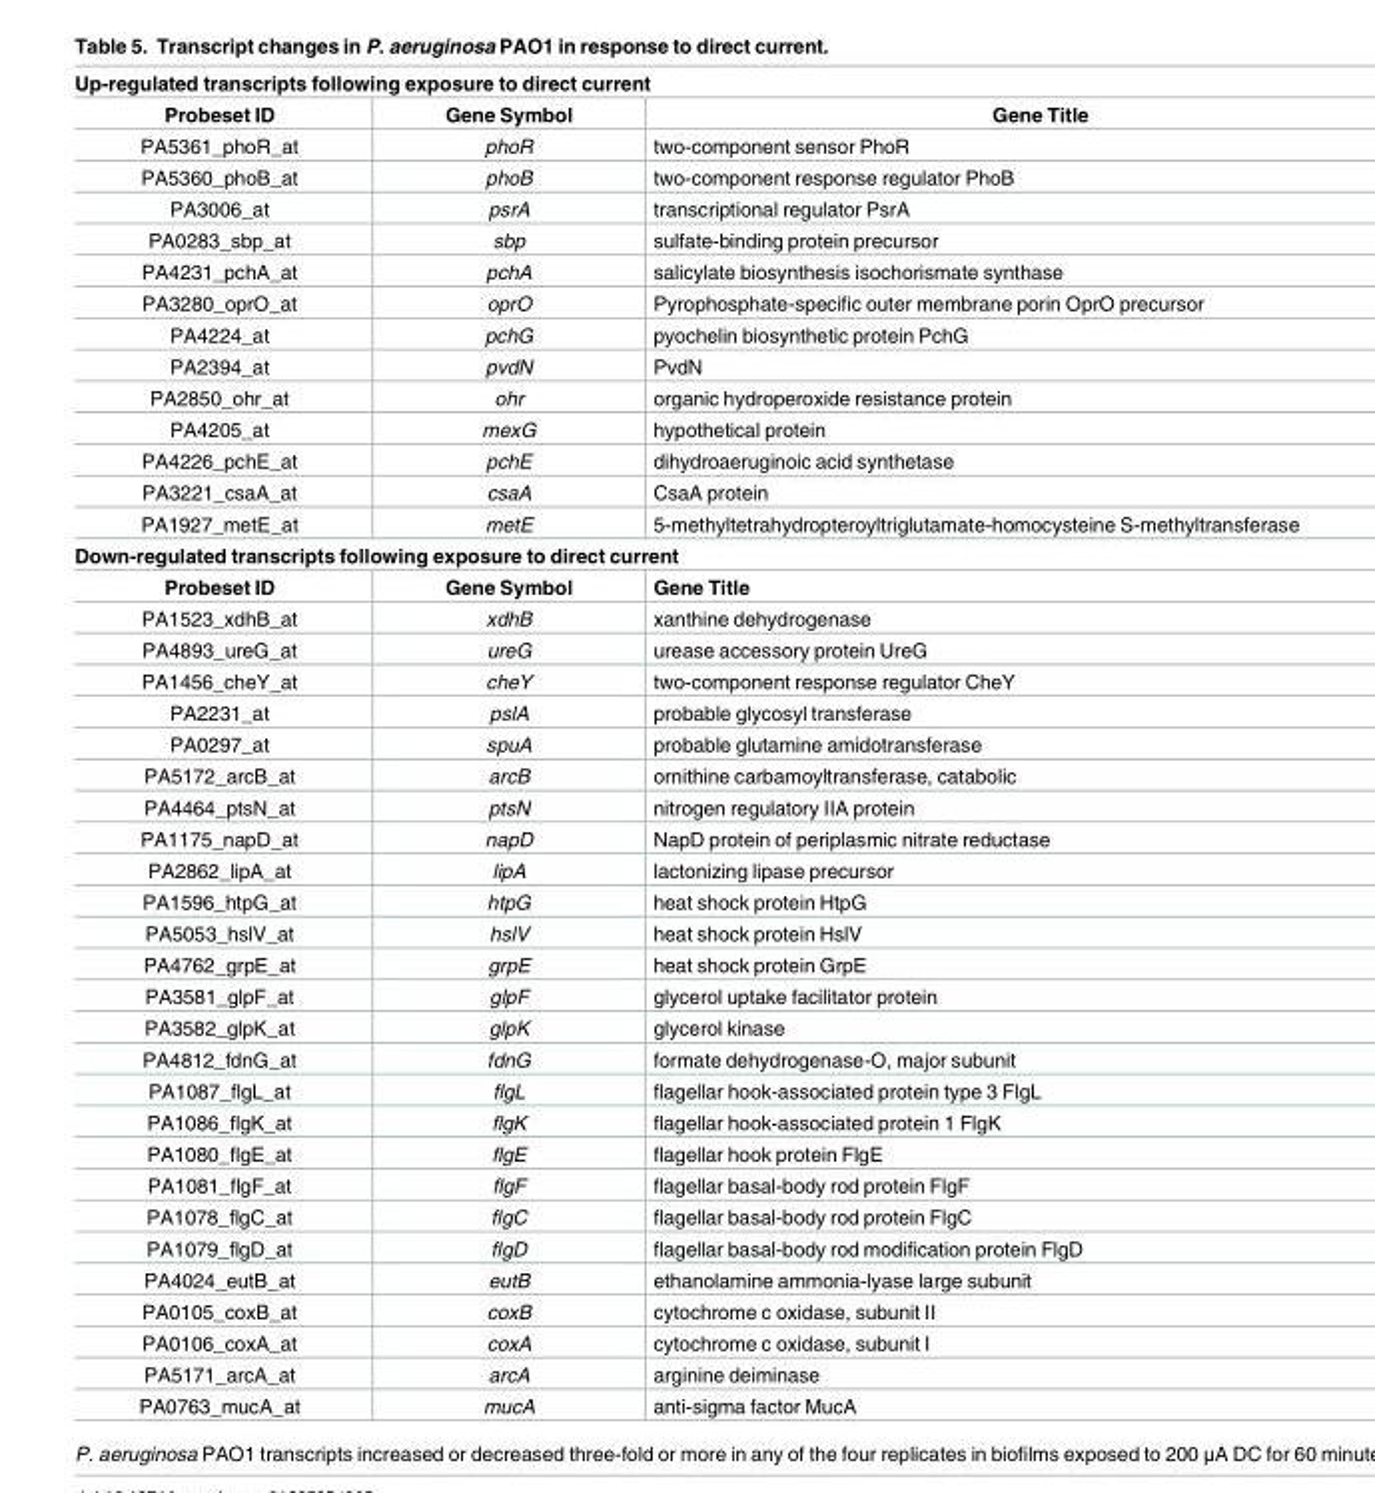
<table><tbody><tr><td colspan="3">Up-regulated transcripts following exposure to direct current</td></tr><tr><td>Probeset ID</td><td>Gene Symbol</td><td>Gene Title</td></tr><tr><td>PA5361_phoR_at</td><td>phoR</td><td>two-component sensor PhoR</td></tr><tr><td>PA5360_phoB_at</td><td>phoB</td><td>two-component response regulator PhoB</td></tr><tr><td>PA3006_at</td><td>psrA</td><td>transcriptional regulator PsrA</td></tr><tr><td>PA0283_sbp_at</td><td>sbp</td><td>sulfate-binding protein precursor</td></tr><tr><td>PA4231_pchA_at</td><td>pchA</td><td>salicylate biosynthesis isochorismate synthase</td></tr><tr><td>PA3280_oprO_at</td><td>oprO</td><td>Pyrophosphate-specific outer membrane porin OprO precursor</td></tr><tr><td>PA4224_at</td><td>pchG</td><td>pyochelin biosynthetic protein PchG</td></tr><tr><td>PA2394_at</td><td>pvdN</td><td>PvdN</td></tr><tr><td>PA2850_ohr_at</td><td>ohr</td><td>organic hydroperoxide resistance protein</td></tr><tr><td>PA4205_at</td><td>mexG</td><td>hypothetical protein</td></tr><tr><td>PA4226_pchE_at</td><td>pchE</td><td>dihydroaeruginoic acid synthetase</td></tr><tr><td>PA3221_csaA_at</td><td>csaA</td><td>CsaA protein</td></tr><tr><td>PA1927_metE_at</td><td>metE</td><td>5-methyltetrahydropteroyltriglutamate-homocysteine S-methyltransferase</td></tr><tr><td colspan="3">Down-regulated transcripts following exposure to direct current</td></tr><tr><td>Probeset ID</td><td>Gene Symbol</td><td>Gene Title</td></tr><tr><td>PA1523_xdhB_at</td><td>xdhB</td><td>xanthine dehydrogenase</td></tr><tr><td>PA4893_ureG_at</td><td>ureG</td><td>urease accessory protein UreG</td></tr><tr><td>PA1456_cheY_at</td><td>cheY</td><td>two-component response regulator CheY</td></tr><tr><td>PA2231_at</td><td>pslA</td><td>probable glycosyl transferase</td></tr><tr><td>PA0297_at</td><td>spuA</td><td>probable glutamine amidotransferase</td></tr><tr><td>PA5172_arcB_at</td><td>arcB</td><td>ornithine carbamoyltransferase, catabolic</td></tr><tr><td>PA4464_ptsN_at</td><td>ptsN</td><td>nitrogen regulatory IIA protein</td></tr><tr><td>PA1175_napD_at</td><td>napD</td><td>NapD protein of periplasmic nitrate reductase</td></tr><tr><td>PA2862_lipA_at</td><td>lipA</td><td>lactonizing lipase precursor</td></tr><tr><td>PA1596_htpG_at</td><td>htpG</td><td>heat shock protein HtpG</td></tr><tr><td>PA5053_hslV_at</td><td>hslV</td><td>heat shock protein HslV</td></tr><tr><td>PA4762_grpE_at</td><td>grpE</td><td>heat shock protein GrpE</td></tr><tr><td>PA3581_glpF_at</td><td>glpF</td><td>glycerol uptake facilitator protein</td></tr><tr><td>PA3582_glpK_at</td><td>glpK</td><td>glycerol kinase</td></tr><tr><td>PA4812_fdnG_at</td><td>fdnG</td><td>formate dehydrogenase-O, major subunit</td></tr><tr><td>PA1087_flgL_at</td><td>flgL</td><td>flagellar hook-associated protein type 3 FlgL</td></tr><tr><td>PA1086_flgK_at</td><td>flgK</td><td>flagellar hook-associated protein 1 FlgK</td></tr><tr><td>PA1080_flgE_at</td><td>flgE</td><td>flagellar hook protein FlgE</td></tr><tr><td>PA1081_flgF_at</td><td>flgF</td><td>flagellar basal-body rod protein FlgF</td></tr><tr><td>PA1078_flgC_at</td><td>flgC</td><td>flagellar basal-body rod protein FlgC</td></tr><tr><td>PA1079_flgD_at</td><td>flgD</td><td>flagellar basal-body rod modification protein FlgD</td></tr><tr><td>PA4024_eutB_at</td><td>eutB</td><td>ethanolamine ammonia-lyase large subunit</td></tr><tr><td>PA0105_coxB_at</td><td>coxB</td><td>cytochrome c oxidase, subunit II</td></tr><tr><td>PA0106_coxA_at</td><td>coxA</td><td>cytochrome c oxidase, subunit I</td></tr><tr><td>PA5171_arcA_at</td><td>arcA</td><td>arginine deiminase</td></tr><tr><td>PA0763_mucA_at</td><td>mucA</td><td>anti-sigma factor MucA</td></tr></tbody></table>